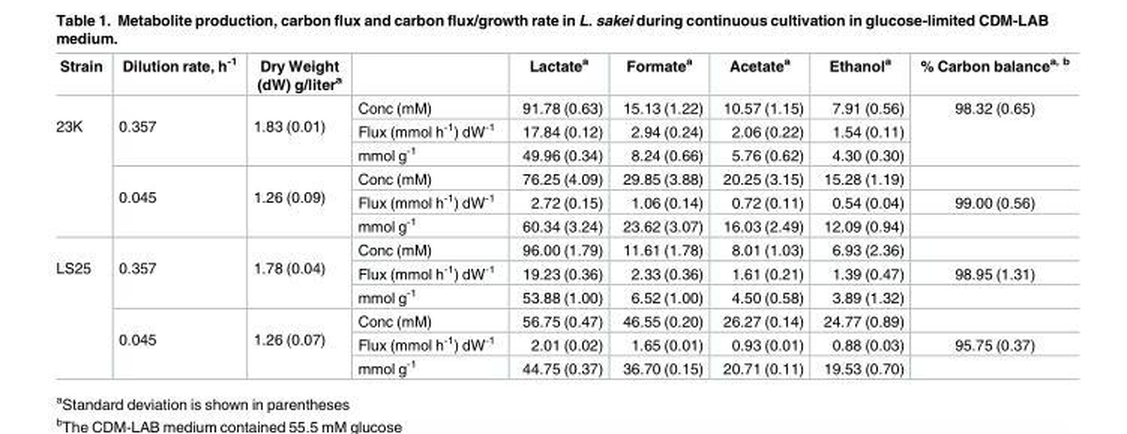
<table><thead><tr><td>Strain</td><td>Dilution rate, h<sup>-1</sup></td><td>Dry Weight (dW) g/liter<sup>a</sup></td><td></td><td>Lactate<sup>a</sup></td><td>Formate<sup>a</sup></td><td>Acetate<sup>a</sup></td><td>Ethanol<sup>a</sup></td><td>% Carbon balance<sup>a, b</sup></td></tr></thead><tbody><tr><td rowspan="6">23K</td><td rowspan="3">0.357</td><td rowspan="3">1.83 (0.01)</td><td>Conc (mM)</td><td>91.78 (0.63)</td><td>15.13 (1.22)</td><td>10.57 (1.15)</td><td>7.91 (0.56)</td><td rowspan="3">98.32 (0.65)</td></tr><tr><td>Flux (mmol h<sup>-1</sup>) dW<sup>-1</sup></td><td>17.84 (0.12)</td><td>2.94 (0.24)</td><td>2.06 (0.22)</td><td>1.54 (0.11)</td></tr><tr><td>mmol g<sup>-1</sup></td><td>49.96 (0.34)</td><td>8.24 (0.66)</td><td>5.76 (0.62)</td><td>4.30 (0.30)</td></tr><tr><td rowspan="3">0.045</td><td rowspan="3">1.26 (0.09)</td><td>Conc (mM)</td><td>76.25 (4.09)</td><td>29.85 (3.88)</td><td>20.25 (3.15)</td><td>15.28 (1.19)</td><td></td></tr><tr><td>Flux (mmol h<sup>-1</sup>) dW<sup>-1</sup></td><td>2.72 (0.15)</td><td>1.06 (0.14)</td><td>0.72 (0.11)</td><td>0.54 (0.04)</td><td>99.00 (0.56)</td></tr><tr><td>mmol g<sup>-1</sup></td><td>60.34 (3.24)</td><td>23.62 (3.07)</td><td>16.03 (2.49)</td><td>12.09 (0.94)</td><td></td></tr><tr><td rowspan="6">LS25</td><td rowspan="3">0.357</td><td rowspan="3">1.78 (0.04)</td><td>Conc (mM)</td><td>96.00 (1.79)</td><td>11.61 (1.78)</td><td>8.01 (1.03)</td><td>6.93 (2.36)</td><td></td></tr><tr><td>Flux (mmol h<sup>-1</sup>) dW<sup>-1</sup></td><td>19.23 (0.36)</td><td>2.33 (0.36)</td><td>1.61 (0.21)</td><td>1.39 (0.47)</td><td>98.95 (1.31)</td></tr><tr><td>mmol g<sup>-1</sup></td><td>53.88 (1.00)</td><td>6.52 (1.00)</td><td>4.50 (0.58)</td><td>3.89 (1.32)</td><td></td></tr><tr><td rowspan="3">0.045</td><td rowspan="3">1.26 (0.07)</td><td>Conc (mM)</td><td>56.75 (0.47)</td><td>46.55 (0.20)</td><td>26.27 (0.14)</td><td>24.77 (0.89)</td><td></td></tr><tr><td>Flux (mmol h<sup>-1</sup>) dW<sup>-1</sup></td><td>2.01 (0.02)</td><td>1.65 (0.01)</td><td>0.93 (0.01)</td><td>0.88 (0.03)</td><td>95.75 (0.37)</td></tr><tr><td>mmol g<sup>-1</sup></td><td>44.75 (0.37)</td><td>36.70 (0.15)</td><td>20.71 (0.11)</td><td>19.53 (0.70)</td><td></td></tr></tbody></table>